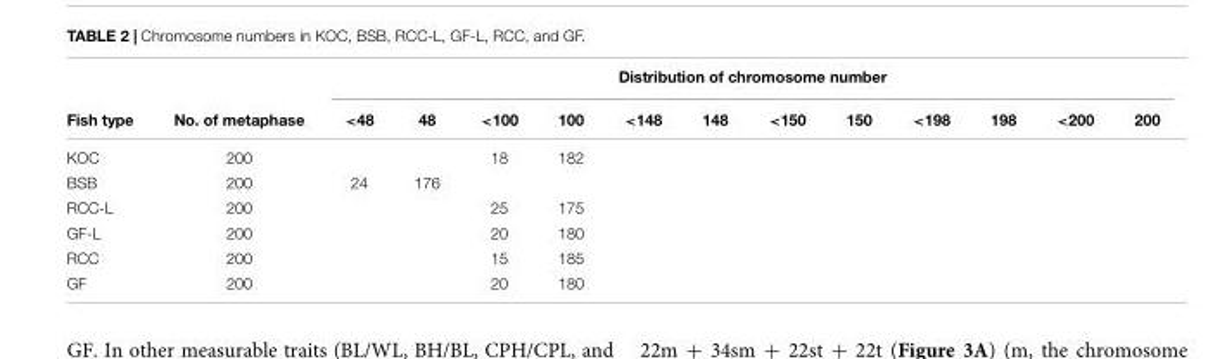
<table><thead><tr><td rowspan="2">Fish type</td><td rowspan="2">No. of metaphase</td><td colspan="12">Distribution of chromosome number</td></tr><tr><td>&lt;48</td><td>48</td><td>&lt;100</td><td>100</td><td>&lt;148</td><td>148</td><td>&lt;150</td><td>150</td><td>&lt;198</td><td>198</td><td>&lt;200</td><td>200</td></tr></thead><tbody><tr><td>KOC</td><td>200</td><td></td><td></td><td>18</td><td>182</td><td></td><td></td><td></td><td></td><td></td><td></td><td></td><td></td></tr><tr><td>BSB</td><td>200</td><td>24</td><td>176</td><td></td><td></td><td></td><td></td><td></td><td></td><td></td><td></td><td></td><td></td></tr><tr><td>RCC-L</td><td>200</td><td></td><td></td><td>25</td><td>175</td><td></td><td></td><td></td><td></td><td></td><td></td><td></td><td></td></tr><tr><td>GF-L</td><td>200</td><td></td><td></td><td>20</td><td>180</td><td></td><td></td><td></td><td></td><td></td><td></td><td></td><td></td></tr><tr><td>RCC</td><td>200</td><td></td><td></td><td>15</td><td>185</td><td></td><td></td><td></td><td></td><td></td><td></td><td></td><td></td></tr><tr><td>GF</td><td>200</td><td></td><td></td><td>20</td><td>180</td><td></td><td></td><td></td><td></td><td></td><td></td><td></td><td></td></tr></tbody></table>